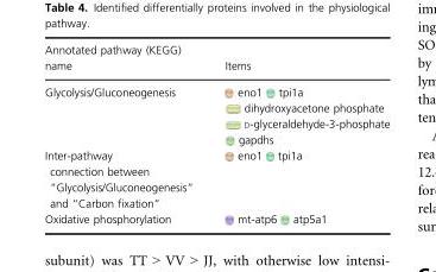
<table><thead><tr><td>Annotated pathway (KEGG) name</td><td>Items</td></tr></thead><tbody><tr><td>Glycolysis/Gluconeogenesis</td><td>eno1 tpi1a dihydroxyacetone phosphate D-glyceraldehyde-3-phosphate gapdhs</td></tr><tr><td>Inter-pathway connection between “Glycolysis/Gluconeogenesis” and “Carbon fixation”</td><td>eno1 tpi1a</td></tr><tr><td>Oxidative phosphorylation</td><td>mt-atp6 atp5a1</td></tr></tbody></table>